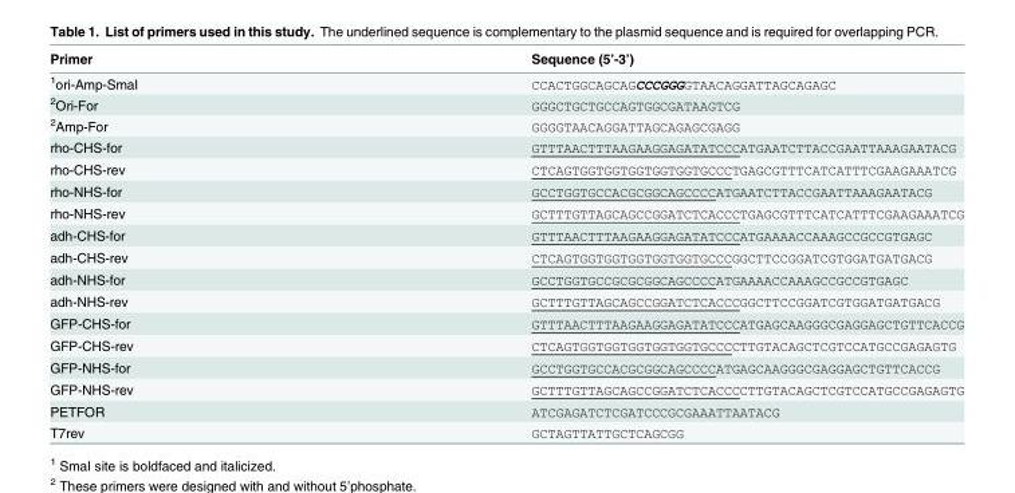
<table><thead><tr><td>Primer</td><td>Sequence (5’-3’)</td></tr></thead><tbody><tr><td><sup>1</sup>ori-Amp-SmaI</td><td>CCACTGGCAGCAGCCCGGGGTAACAGGATTAGCAGAGC</td></tr><tr><td><sup>2</sup>Ori-For</td><td>GGGCTGCTGCCAGTGGCGATAAGTCG</td></tr><tr><td><sup>2</sup>Amp-For</td><td>GGGGTAACAGGATTAGCAGAGCGAGG</td></tr><tr><td>rho-CHS-for</td><td>GTTTAACTTTAAGAAGGAGATATCCCATGAATCTTACCGAATTAAAGAATACG</td></tr><tr><td>rho-CHS-rev</td><td>CTCAGTGGTGGTGGTGGTGGTGCCCTGAGCGTTTCATCATTTCGAAGAAATCG</td></tr><tr><td>rho-NHS-for</td><td>GCCTGGTGCCACGCGGCAGCCCCATGAATCTTACCGAATTAAAGAATACG</td></tr><tr><td>rho-NHS-rev</td><td>GCTTTGTTAGCAGCCGGATCTCACCCTGAGCGTTTCATCATTTCGAAGAAATCG</td></tr><tr><td>adh-CHS-for</td><td>GTTTAACTTTAAGAAGGAGATATCCCATGAAAACCAAAGCCGCCGTGAGC</td></tr><tr><td>adh-CHS-rev</td><td>CTCAGTGGTGGTGGTGGTGGTGCCCGGCTTCCGGATCGTGGATGATGACG</td></tr><tr><td>adh-NHS-for</td><td>GCCTGGTGCCGCGCGGCAGCCCCATGAAAACCAAAGCCGCCGTGAGC</td></tr><tr><td>adh-NHS-rev</td><td>GCTTTGTTAGCAGCCGGATCTCACCCGGCTTCCGGATCGTGGATGATGACG</td></tr><tr><td>GFP-CHS-for</td><td>GTTTAACTTTAAGAAGGAGATATCCCATGAGCAAGGGCGAGGAGCTGTTCACCG</td></tr><tr><td>GFP-CHS-rev</td><td>CTCAGTGGTGGTGGTGGTGGTGCCCCTTGTACAGCTCGTCCATGCCGAGAGTG</td></tr><tr><td>GFP-NHS-for</td><td>GCCTGGTGCCACGCGGCAGCCCCATGAGCAAGGGCGAGGAGCTGTTCACCG</td></tr><tr><td>GFP-NHS-rev</td><td>GCTTTGTTAGCAGCCGGATCTCACCCCTTGTACAGCTCGTCCATGCCGAGAGTG</td></tr><tr><td>PETFOR</td><td>ATCGAGATCTCGATCCCGCGAAATTAATACG</td></tr><tr><td>T7rev</td><td>GCTAGTTATTGCTCAGCGG</td></tr></tbody></table>